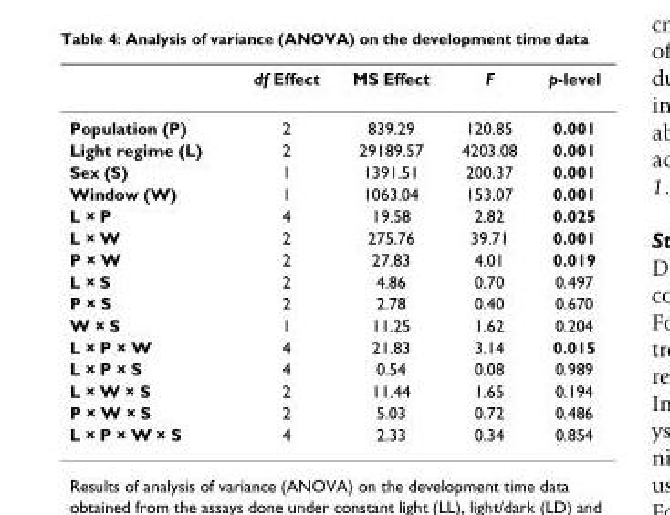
<table><thead><tr><td></td><td>df Effect</td><td>MS Effect</td><td>F</td><td>p-level</td></tr></thead><tbody><tr><td>Population (P)</td><td>2</td><td>839.29</td><td>120.85</td><td>0.001</td></tr><tr><td>Light regime (L)</td><td>2</td><td>29189.57</td><td>4203.08</td><td>0.001</td></tr><tr><td>Sex (S)</td><td>1</td><td>1391.51</td><td>200.37</td><td>0.001</td></tr><tr><td>Window (W)</td><td>1</td><td>1063.04</td><td>153.07</td><td>0.001</td></tr><tr><td>L × P</td><td>4</td><td>19.58</td><td>2.82</td><td>0.025</td></tr><tr><td>L × W</td><td>2</td><td>275.76</td><td>39.71</td><td>0.001</td></tr><tr><td>P × W</td><td>2</td><td>27.83</td><td>4.01</td><td>0.019</td></tr><tr><td>L × S</td><td>2</td><td>4.86</td><td>0.70</td><td>0.497</td></tr><tr><td>P × S</td><td>2</td><td>2.78</td><td>0.40</td><td>0.670</td></tr><tr><td>W × S</td><td>1</td><td>11.25</td><td>1.62</td><td>0.204</td></tr><tr><td>L × P × W</td><td>4</td><td>21.83</td><td>3.14</td><td>0.015</td></tr><tr><td>L × P × S</td><td>4</td><td>0.54</td><td>0.08</td><td>0.989</td></tr><tr><td>L × W × S</td><td>2</td><td>11.44</td><td>1.65</td><td>0.194</td></tr><tr><td>P × W × S</td><td>2</td><td>5.03</td><td>0.72</td><td>0.486</td></tr><tr><td>L × P × W × S</td><td>4</td><td>2.33</td><td>0.34</td><td>0.854</td></tr></tbody></table>